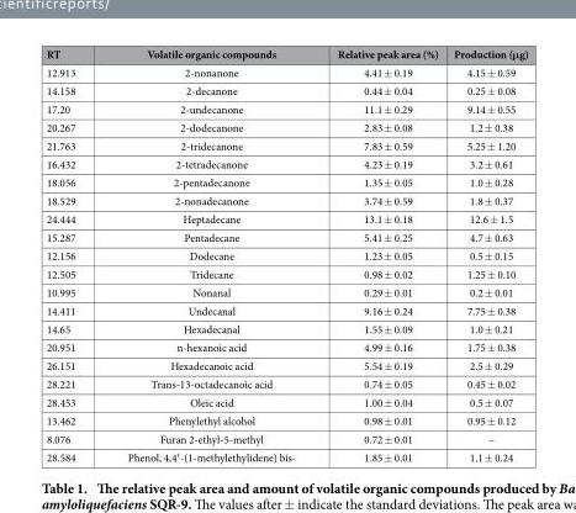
<table><thead><tr><td>RT</td><td>Volatile organic compounds</td><td>Relative peak area (%)</td><td>Production (μg)</td></tr></thead><tbody><tr><td>12.913</td><td>2-nonanone</td><td>4.41 ± 0.19</td><td>4.15 ± 0.59</td></tr><tr><td>14.158</td><td>2-decanone</td><td>0.44 ± 0.04</td><td>0.25 ± 0.08</td></tr><tr><td>17.20</td><td>2-undecanone</td><td>11.1 ± 0.29</td><td>9.14 ± 0.55</td></tr><tr><td>20.267</td><td>2-dodecanone</td><td>2.83 ± 0.08</td><td>1.2 ± 0.38</td></tr><tr><td>21.763</td><td>2-tridecanone</td><td>7.83 ± 0.59</td><td>5.25 ± 1.20</td></tr><tr><td>16.432</td><td>2-tetradecanone</td><td>4.23 ± 0.19</td><td>3.2 ± 0.61</td></tr><tr><td>18.056</td><td>2-pentadecanone</td><td>1.35 ± 0.05</td><td>1.0 ± 0.28</td></tr><tr><td>18.529</td><td>2-nonadecanone</td><td>3.74 ± 0.59</td><td>1.8 ± 0.37</td></tr><tr><td>24.444</td><td>Heptadecane</td><td>13.1 ± 0.18</td><td>12.6 ± 1.5</td></tr><tr><td>15.287</td><td>Pentadecane</td><td>5.41 ± 0.25</td><td>4.7 ± 0.63</td></tr><tr><td>12.156</td><td>Dodecane</td><td>1.23 ± 0.05</td><td>0.5 ± 0.15</td></tr><tr><td>12.505</td><td>Tridecane</td><td>0.98 ± 0.02</td><td>1.25 ± 0.10</td></tr><tr><td>10.995</td><td>Nonanal</td><td>0.29 ± 0.01</td><td>0.2 ± 0.01</td></tr><tr><td>14.411</td><td>Undecanal</td><td>9.16 ± 0.24</td><td>7.75 ± 0.38</td></tr><tr><td>14.65</td><td>Hexadecanal</td><td>1.55 ± 0.09</td><td>1.0 ± 0.21</td></tr><tr><td>20.951</td><td>n-hexanoic acid</td><td>4.99 ± 0.16</td><td>1.75 ± 0.38</td></tr><tr><td>26.151</td><td>Hexadecanoic acid</td><td>5.54 ± 0.19</td><td>2.5 ± 0.29</td></tr><tr><td>28.221</td><td>Trans-13-octadecanoic acid</td><td>0.74 ± 0.05</td><td>0.45 ± 0.02</td></tr><tr><td>28.453</td><td>Oleic acid</td><td>1.00 ± 0.04</td><td>0.5 ± 0.07</td></tr><tr><td>13.462</td><td>Phenylethyl alcohol</td><td>0.98 ± 0.01</td><td>0.95 ± 0.12</td></tr><tr><td>8.076</td><td>Furan 2-ethyl-5-methyl</td><td>0.72 ± 0.01</td><td>–</td></tr><tr><td>28.584</td><td>Phenol, 4,4′ -(1-methylethylidene) bis-</td><td>1.85 ± 0.01</td><td>1.1 ± 0.24</td></tr></tbody></table>